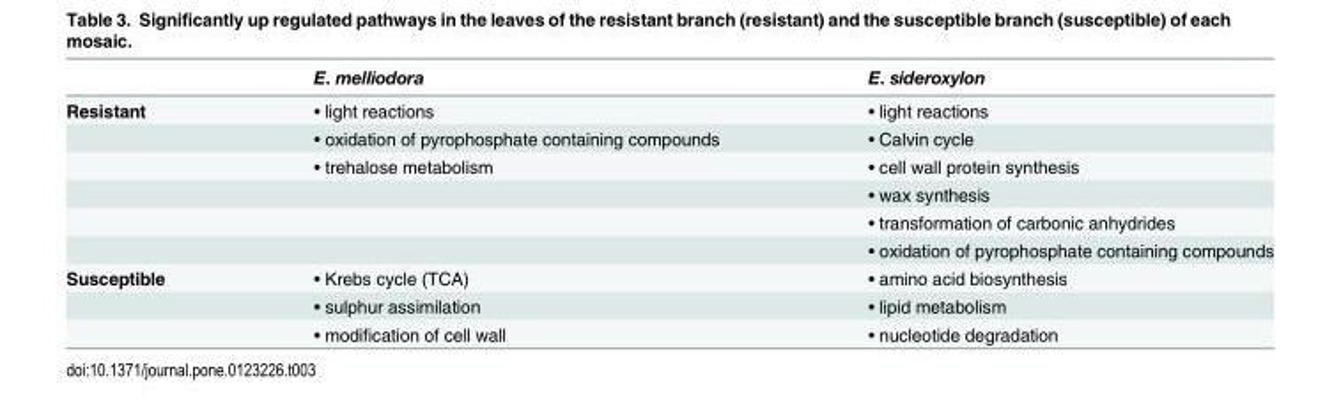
<table><thead><tr><td></td><td>E. melliodora</td><td>E. sideroxylon</td></tr></thead><tbody><tr><td rowspan="6">Resistant</td><td>• light reactions</td><td>• light reactions</td></tr><tr><td>• oxidation of pyrophosphate containing compounds</td><td>• Calvin cycle</td></tr><tr><td>• trehalose metabolism</td><td>• cell wall protein synthesis</td></tr><tr><td></td><td>• wax synthesis</td></tr><tr><td></td><td>• transformation of carbonic anhydrides</td></tr><tr><td></td><td>• oxidation of pyrophosphate containing compounds</td></tr><tr><td rowspan="3">Susceptible</td><td>• Krebs cycle (TCA)</td><td>• amino acid biosynthesis</td></tr><tr><td>• sulphur assimilation</td><td>• lipid metabolism</td></tr><tr><td>• modification of cell wall</td><td>• nucleotide degradation</td></tr></tbody></table>